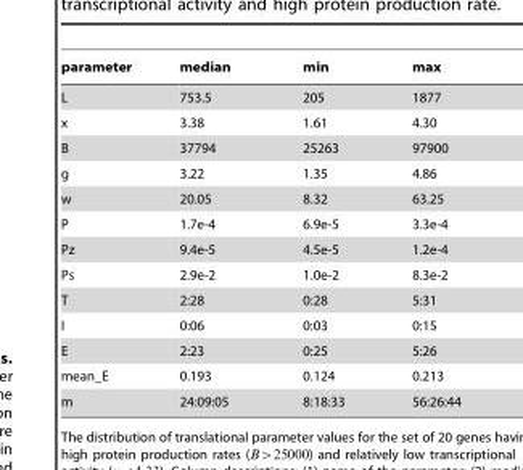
<table><thead><tr><td>parameter</td><td>median</td><td>min</td><td>max</td></tr></thead><tbody><tr><td>L</td><td>753.5</td><td>205</td><td>1877</td></tr><tr><td>x</td><td>3.38</td><td>1.61</td><td>4.30</td></tr><tr><td>B</td><td>37794</td><td>25263</td><td>97900</td></tr><tr><td>g</td><td>3.22</td><td>1.35</td><td>4.86</td></tr><tr><td>w</td><td>20.05</td><td>8.32</td><td>63.25</td></tr><tr><td>P</td><td>1.7e-4</td><td>6.9e-5</td><td>3.3e-4</td></tr><tr><td>Pz</td><td>9.4e-5</td><td>4.5e-5</td><td>1.2e-4</td></tr><tr><td>Ps</td><td>2.9e-2</td><td>1.0e-2</td><td>8.3e-2</td></tr><tr><td>T</td><td>2:28</td><td>0:28</td><td>5:31</td></tr><tr><td>I</td><td>0:06</td><td>0:03</td><td>0:15</td></tr><tr><td>E</td><td>2:23</td><td>0:25</td><td>5:26</td></tr><tr><td>mean_E</td><td>0.193</td><td>0.124</td><td>0.213</td></tr><tr><td>m</td><td>24:09:05</td><td>8:18:33</td><td>56:26:44</td></tr></tbody></table>